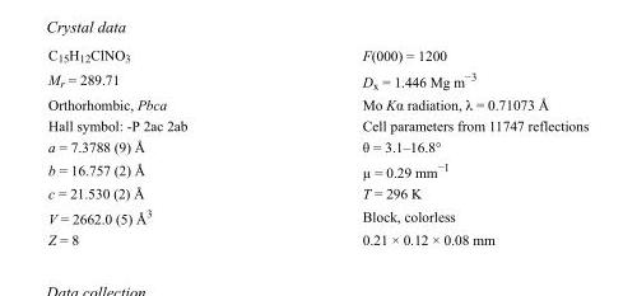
<table><tbody><tr><td>C<sub>15</sub>H<sub>12</sub>ClNO<sub>3</sub></td><td>F(000) = 1200</td></tr><tr><td>M<sub>r</sub> = 289.71</td><td>D<sub>x</sub> = 1.446 Mg m<sup>−3</sup></td></tr><tr><td>Orthorhombic, Pbca</td><td>Mo Kα radiation, λ = 0.71073 Å</td></tr><tr><td>Hall symbol: -P 2ac 2ab</td><td>Cell parameters from 11747 reflections</td></tr><tr><td>a = 7.3788 (9) Å</td><td>θ = 3.1–16.8°</td></tr><tr><td>b = 16.757 (2) Å</td><td>µ = 0.29 mm<sup>−1</sup></td></tr><tr><td>c = 21.530 (2) Å</td><td>T = 296 K</td></tr><tr><td>V = 2662.0 (5) Å<sup>3</sup></td><td>Block, colorless</td></tr><tr><td>Z = 8</td><td>0.21 × 0.12 × 0.08 mm</td></tr></tbody></table>